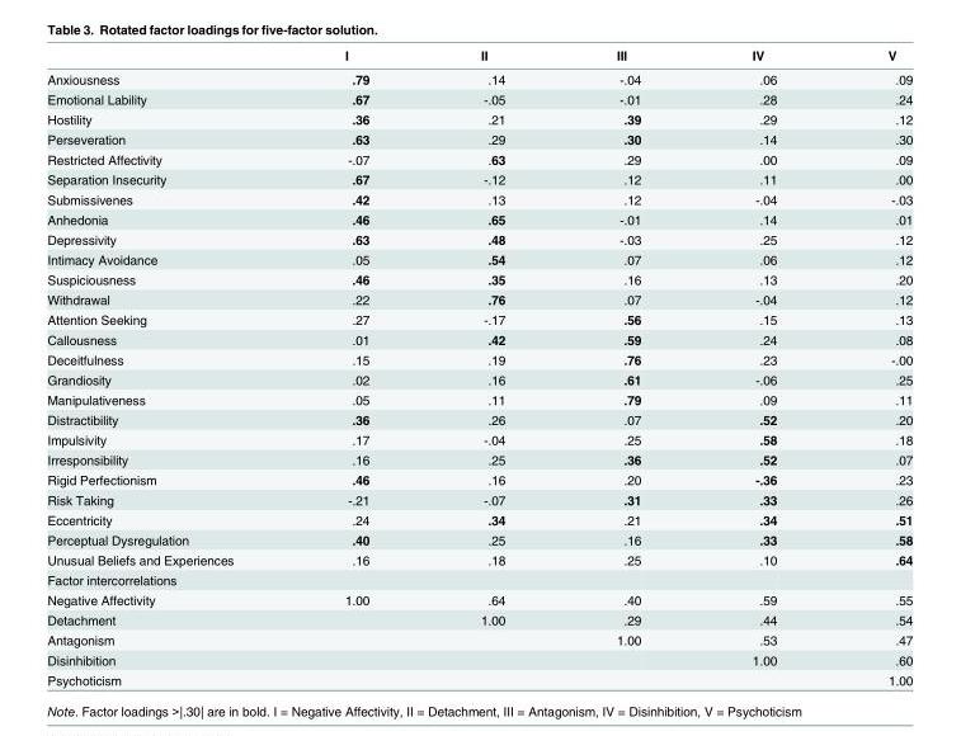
<table><thead><tr><td></td><td>I</td><td>II</td><td>III</td><td>IV</td><td>V</td></tr></thead><tbody><tr><td>Anxiousness</td><td>.79</td><td>.14</td><td>-.04</td><td>.06</td><td>.09</td></tr><tr><td>Emotional Lability</td><td>.67</td><td>-.05</td><td>-.01</td><td>.28</td><td>.24</td></tr><tr><td>Hostility</td><td>.36</td><td>.21</td><td>.39</td><td>.29</td><td>.12</td></tr><tr><td>Perseveration</td><td>.63</td><td>.29</td><td>.30</td><td>.14</td><td>.30</td></tr><tr><td>Restricted Affectivity</td><td>-.07</td><td>.63</td><td>.29</td><td>.00</td><td>.09</td></tr><tr><td>Separation Insecurity</td><td>.67</td><td>-.12</td><td>.12</td><td>.11</td><td>.00</td></tr><tr><td>Submissivenes</td><td>.42</td><td>.13</td><td>.12</td><td>-.04</td><td>-.03</td></tr><tr><td>Anhedonia</td><td>.46</td><td>.65</td><td>-.01</td><td>.14</td><td>.01</td></tr><tr><td>Depressivity</td><td>.63</td><td>.48</td><td>-.03</td><td>.25</td><td>.12</td></tr><tr><td>Intimacy Avoidance</td><td>.05</td><td>.54</td><td>.07</td><td>.06</td><td>.12</td></tr><tr><td>Suspiciousness</td><td>.46</td><td>.35</td><td>.16</td><td>.13</td><td>.20</td></tr><tr><td>Withdrawal</td><td>.22</td><td>.76</td><td>.07</td><td>-.04</td><td>.12</td></tr><tr><td>Attention Seeking</td><td>.27</td><td>-.17</td><td>.56</td><td>.15</td><td>.13</td></tr><tr><td>Callousness</td><td>.01</td><td>.42</td><td>.59</td><td>.24</td><td>.08</td></tr><tr><td>Deceitfulness</td><td>.15</td><td>.19</td><td>.76</td><td>.23</td><td>-.00</td></tr><tr><td>Grandiosity</td><td>.02</td><td>.16</td><td>.61</td><td>-.06</td><td>.25</td></tr><tr><td>Manipulativeness</td><td>.05</td><td>.11</td><td>.79</td><td>.09</td><td>.11</td></tr><tr><td>Distractibility</td><td>.36</td><td>.26</td><td>.07</td><td>.52</td><td>.20</td></tr><tr><td>Impulsivity</td><td>.17</td><td>-.04</td><td>.25</td><td>.58</td><td>.18</td></tr><tr><td>Irresponsibility</td><td>.16</td><td>.25</td><td>.36</td><td>.52</td><td>.07</td></tr><tr><td>Rigid Perfectionism</td><td>.46</td><td>.16</td><td>.20</td><td>-.36</td><td>.23</td></tr><tr><td>Risk Taking</td><td>-.21</td><td>-.07</td><td>.31</td><td>.33</td><td>.26</td></tr><tr><td>Eccentricity</td><td>.24</td><td>.34</td><td>.21</td><td>.34</td><td>.51</td></tr><tr><td>Perceptual Dysregulation</td><td>.40</td><td>.25</td><td>.16</td><td>.33</td><td>.58</td></tr><tr><td>Unusual Beliefs and Experiences</td><td>.16</td><td>.18</td><td>.25</td><td>.10</td><td>.64</td></tr><tr><td colspan="6">Factor intercorrelations</td></tr><tr><td>Negative Affectivity</td><td>1.00</td><td>.64</td><td>.40</td><td>.59</td><td>.55</td></tr><tr><td>Detachment</td><td></td><td>1.00</td><td>.29</td><td>.44</td><td>.54</td></tr><tr><td>Antagonism</td><td></td><td></td><td>1.00</td><td>.53</td><td>.47</td></tr><tr><td>Disinhibition</td><td></td><td></td><td></td><td>1.00</td><td>.60</td></tr><tr><td>Psychoticism</td><td></td><td></td><td></td><td></td><td>1.00</td></tr></tbody></table>